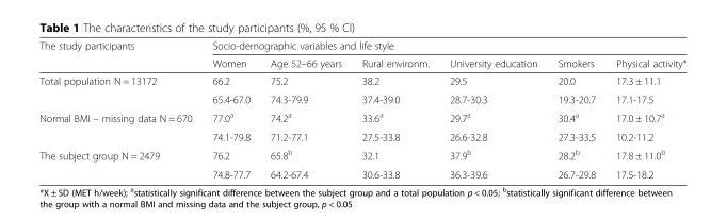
<table><thead><tr><td rowspan="2">The study participants</td><td colspan="6">Socio-demographic variables and life style</td></tr><tr><td>Women</td><td>Age 52–66 years</td><td>Rural environm.</td><td>University education</td><td>Smokers</td><td>Physical activity*</td></tr></thead><tbody><tr><td rowspan="2">Total population N = 13172</td><td>66.2</td><td>75.2</td><td>38.2</td><td>29.5</td><td>20.0</td><td>17.3 ± 11.1</td></tr><tr><td>65.4-67.0</td><td>74.3-79.9</td><td>37.4-39.0</td><td>28.7-30.3</td><td>19.3-20.7</td><td>17.1-17.5</td></tr><tr><td rowspan="2">Normal BMI – missing data N = 670</td><td>77.0<sup>a</sup></td><td>74.2<sup>a</sup></td><td>33.6<sup>a</sup></td><td>29.7<sup>a</sup></td><td>30.4<sup>a</sup></td><td>17.0 ± 10.7<sup>a</sup></td></tr><tr><td>74.1-79.8</td><td>71.2-77.1</td><td>27.5-33.8</td><td>26.6-32.8</td><td>27.3-33.5</td><td>10.2-11.2</td></tr><tr><td rowspan="2">The subject group N = 2479</td><td>76.2</td><td>65.8<sup>b</sup></td><td>32.1</td><td>37.9<sup>b</sup></td><td>28.2<sup>b</sup></td><td>17.8 ± 11.0<sup>b</sup></td></tr><tr><td>74.8-77.7</td><td>64.2-67.4</td><td>30.6-33.8</td><td>36.3-39.6</td><td>26.7-29.8</td><td>17.5-18.2</td></tr></tbody></table>